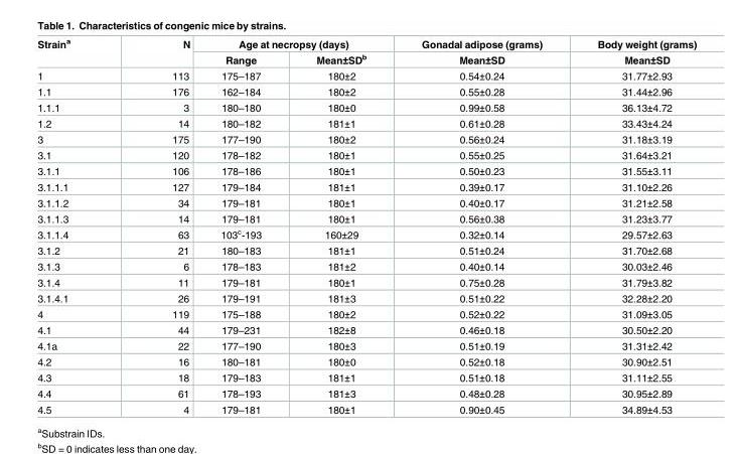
<table><thead><tr><td rowspan="2">Strain<sup>a</sup></td><td rowspan="2">N</td><td colspan="2">Age at necropsy (days)</td><td rowspan="2">Gonadal adipose (grams) Mean±SD</td><td rowspan="2">Body weight (grams) Mean±SD</td></tr><tr><td>Range</td><td>Mean±SD<sup>b</sup></td></tr></thead><tbody><tr><td>1</td><td>113</td><td>175–187</td><td>180±2</td><td>0.54±0.24</td><td>31.77±2.93</td></tr><tr><td>1.1</td><td>176</td><td>162–184</td><td>180±2</td><td>0.55±0.28</td><td>31.44±2.96</td></tr><tr><td>1.1.1</td><td>3</td><td>180–180</td><td>180±0</td><td>0.99±0.58</td><td>36.13±4.72</td></tr><tr><td>1.2</td><td>14</td><td>180–182</td><td>181±1</td><td>0.61±0.28</td><td>33.43±4.24</td></tr><tr><td>3</td><td>175</td><td>177–190</td><td>180±2</td><td>0.56±0.24</td><td>31.18±3.19</td></tr><tr><td>3.1</td><td>120</td><td>178–182</td><td>180±1</td><td>0.55±0.25</td><td>31.64±3.21</td></tr><tr><td>3.1.1</td><td>106</td><td>178–186</td><td>180±1</td><td>0.50±0.23</td><td>31.55±3.11</td></tr><tr><td>3.1.1.1</td><td>127</td><td>179–184</td><td>181±1</td><td>0.39±0.17</td><td>31.10±2.26</td></tr><tr><td>3.1.1.2</td><td>34</td><td>179–181</td><td>180±1</td><td>0.40±0.17</td><td>31.21±2.58</td></tr><tr><td>3.1.1.3</td><td>14</td><td>179–181</td><td>180±1</td><td>0.56±0.38</td><td>31.23±3.77</td></tr><tr><td>3.1.1.4</td><td>63</td><td>103<sup>c</sup>-193</td><td>160±29</td><td>0.32±0.14</td><td>29.57±2.63</td></tr><tr><td>3.1.2</td><td>21</td><td>180–183</td><td>181±1</td><td>0.51±0.24</td><td>31.70±2.68</td></tr><tr><td>3.1.3</td><td>6</td><td>178–183</td><td>181±2</td><td>0.40±0.14</td><td>30.03±2.46</td></tr><tr><td>3.1.4</td><td>11</td><td>179–181</td><td>180±1</td><td>0.75±0.28</td><td>31.79±3.82</td></tr><tr><td>3.1.4.1</td><td>26</td><td>179–191</td><td>181±3</td><td>0.51±0.22</td><td>32.28±2.20</td></tr><tr><td>4</td><td>119</td><td>175–188</td><td>180±2</td><td>0.52±0.22</td><td>31.09±3.05</td></tr><tr><td>4.1</td><td>44</td><td>179–231</td><td>182±8</td><td>0.46±0.18</td><td>30.50±2.20</td></tr><tr><td>4.1a</td><td>22</td><td>177–190</td><td>180±3</td><td>0.51±0.19</td><td>31.31±2.42</td></tr><tr><td>4.2</td><td>16</td><td>180–181</td><td>180±0</td><td>0.52±0.18</td><td>30.90±2.51</td></tr><tr><td>4.3</td><td>18</td><td>179–183</td><td>181±1</td><td>0.51±0.18</td><td>31.11±2.55</td></tr><tr><td>4.4</td><td>61</td><td>178–193</td><td>181±3</td><td>0.48±0.28</td><td>30.95±2.89</td></tr><tr><td>4.5</td><td>4</td><td>179–181</td><td>180±1</td><td>0.90±0.45</td><td>34.89±4.53</td></tr></tbody></table>